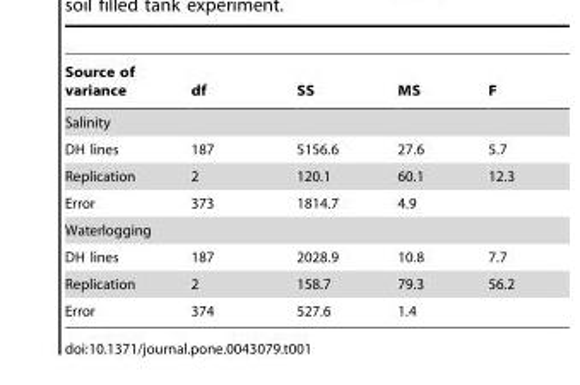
<table><thead><tr><td>Source of variance</td><td>df</td><td>SS</td><td>MS</td><td>F</td></tr></thead><tbody><tr><td colspan="5">Salinity</td></tr><tr><td>DH lines</td><td>187</td><td>5156.6</td><td>27.6</td><td>5.7</td></tr><tr><td>Replication</td><td>2</td><td>120.1</td><td>60.1</td><td>12.3</td></tr><tr><td>Error</td><td>373</td><td>1814.7</td><td>4.9</td><td></td></tr><tr><td colspan="5">Waterlogging</td></tr><tr><td>DH lines</td><td>187</td><td>2028.9</td><td>10.8</td><td>7.7</td></tr><tr><td>Replication</td><td>2</td><td>158.7</td><td>79.3</td><td>56.2</td></tr><tr><td>Error</td><td>374</td><td>527.6</td><td>1.4</td><td></td></tr></tbody></table>